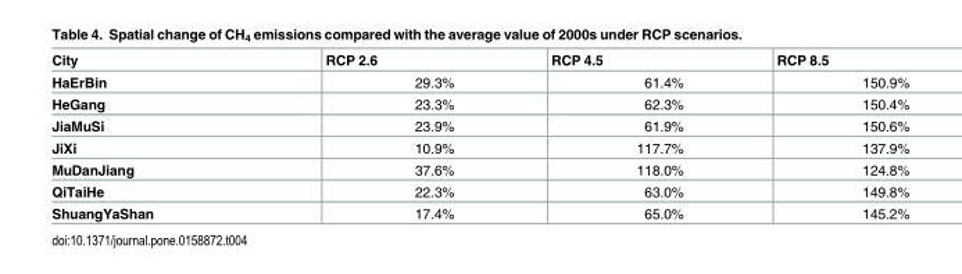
<table><thead><tr><td>City</td><td>RCP 2.6</td><td>RCP 4.5</td><td>RCP 8.5</td></tr></thead><tbody><tr><td>HaErBin</td><td>29.3%</td><td>61.4%</td><td>150.9%</td></tr><tr><td>HeGang</td><td>23.3%</td><td>62.3%</td><td>150.4%</td></tr><tr><td>JiaMuSi</td><td>23.9%</td><td>61.9%</td><td>150.6%</td></tr><tr><td>JiXi</td><td>10.9%</td><td>117.7%</td><td>137.9%</td></tr><tr><td>MuDanJiang</td><td>37.6%</td><td>118.0%</td><td>124.8%</td></tr><tr><td>QiTaiHe</td><td>22.3%</td><td>63.0%</td><td>149.8%</td></tr><tr><td>ShuangYaShan</td><td>17.4%</td><td>65.0%</td><td>145.2%</td></tr></tbody></table>